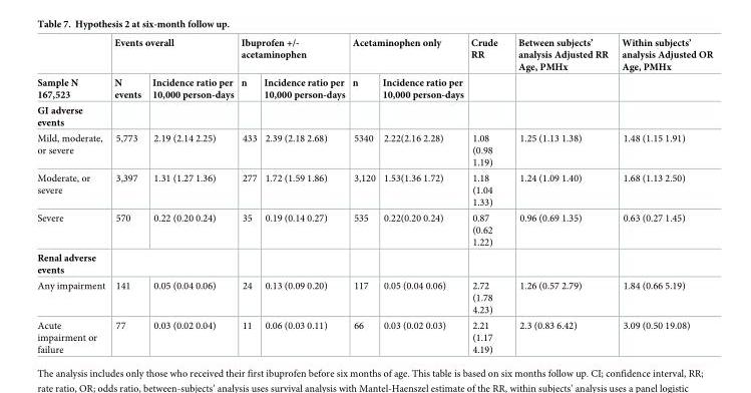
<table><thead><tr><td rowspan="2">Sample N 167,523</td><td colspan="2">Events overall</td><td colspan="2">Ibuprofen +/- acetaminophen</td><td colspan="2">Acetaminophen only</td><td rowspan="2">Crude RR</td><td rowspan="2">Between subjects’ analysis Adjusted RR Age, PMHx</td><td rowspan="2">Within subjects’ analysis Adjusted OR Age, PMHx</td></tr><tr><td>N events</td><td>Incidence ratio per 10,000 person-days</td><td>n</td><td>Incidence ratio per 10,000 person-days</td><td>n</td><td>Incidence ratio per 10,000 person-days</td></tr></thead><tbody><tr><td colspan="10">GI adverse events</td></tr><tr><td>Mild, moderate, or severe</td><td>5,773</td><td>2.19 (2.14 2.25)</td><td>433</td><td>2.39 (2.18 2.68)</td><td>5340</td><td>2.22(2.16 2.28)</td><td>1.08 (0.98 1.19)</td><td>1.25 (1.13 1.38)</td><td>1.48 (1.15 1.91)</td></tr><tr><td>Moderate, or severe</td><td>3,397</td><td>1.31 (1.27 1.36)</td><td>277</td><td>1.72 (1.59 1.86)</td><td>3,120</td><td>1.53(1.36 1.72)</td><td>1.18 (1.04 1.33)</td><td>1.24 (1.09 1.40)</td><td>1.68 (1.13 2.50)</td></tr><tr><td>Severe</td><td>570</td><td>0.22 (0.20 0.24)</td><td>35</td><td>0.19 (0.14 0.27)</td><td>535</td><td>0.22(0.20 0.24)</td><td>0.87 (0.62 1.22)</td><td>0.96 (0.69 1.35)</td><td>0.63 (0.27 1.45)</td></tr><tr><td colspan="10">Renal adverse events</td></tr><tr><td>Any impairment</td><td>141</td><td>0.05 (0.04 0.06)</td><td>24</td><td>0.13 (0.09 0.20)</td><td>117</td><td>0.05 (0.04 0.06)</td><td>2.72 (1.78 4.23)</td><td>1.26 (0.57 2.79)</td><td>1.84 (0.66 5.19)</td></tr><tr><td>Acute impairment or failure</td><td>77</td><td>0.03 (0.02 0.04)</td><td>11</td><td>0.06 (0.03 0.11)</td><td>66</td><td>0.03 (0.02 0.03)</td><td>2.21 (1.17 4.19)</td><td>2.3 (0.83 6.42)</td><td>3.09 (0.50 19.08)</td></tr></tbody></table>